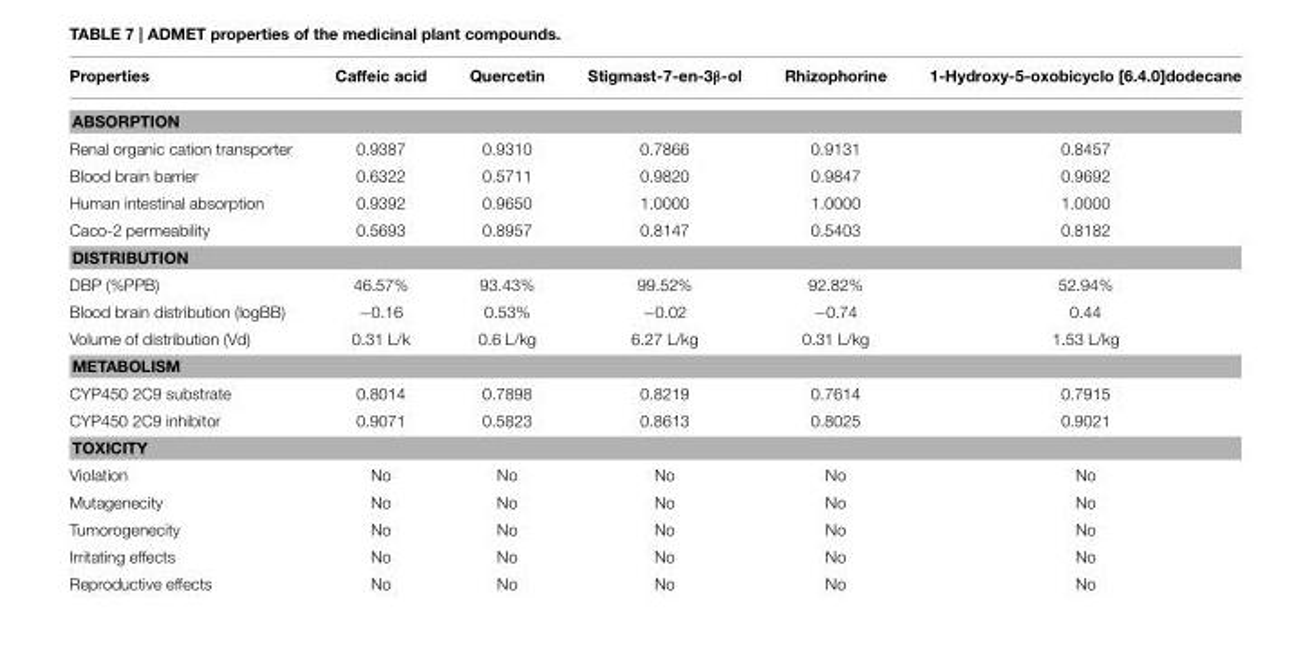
<table><thead><tr><td>Properties</td><td>Caffeic acid</td><td>Quercetin</td><td>Stigmast-7-en-3β-ol</td><td>Rhizophorine</td><td>1-Hydroxy-5-oxobicyclo [6.4.0]dodecane</td></tr></thead><tbody><tr><td colspan="6">ABSORPTION</td></tr><tr><td>Renal organic cation transporter</td><td>0.9387</td><td>0.9310</td><td>0.7866</td><td>0.9131</td><td>0.8457</td></tr><tr><td>Blood brain barrier</td><td>0.6322</td><td>0.5711</td><td>0.9820</td><td>0.9847</td><td>0.9692</td></tr><tr><td>Human intestinal absorption</td><td>0.9392</td><td>0.9650</td><td>1.0000</td><td>1.0000</td><td>1.0000</td></tr><tr><td>Caco-2 permeability</td><td>0.5693</td><td>0.8957</td><td>0.8147</td><td>0.5403</td><td>0.8182</td></tr><tr><td colspan="6">DISTRIBUTION</td></tr><tr><td>DBP (%PPB)</td><td>46.57%</td><td>93.43%</td><td>99.52%</td><td>92.82%</td><td>52.94%</td></tr><tr><td>Blood brain distribution (logBB)</td><td>−0.16</td><td>0.53%</td><td>−0.02</td><td>−0.74</td><td>0.44</td></tr><tr><td>Volume of distribution (Vd)</td><td>0.31 L/k</td><td>0.6 L/kg</td><td>6.27 L/kg</td><td>0.31 L/kg</td><td>1.53 L/kg</td></tr><tr><td colspan="6">METABOLISM</td></tr><tr><td>CYP450 2C9 substrate</td><td>0.8014</td><td>0.7898</td><td>0.8219</td><td>0.7614</td><td>0.7915</td></tr><tr><td>CYP450 2C9 inhibitor</td><td>0.9071</td><td>0.5823</td><td>0.8613</td><td>0.8025</td><td>0.9021</td></tr><tr><td colspan="6">TOXICITY</td></tr><tr><td>Violation</td><td>No</td><td>No</td><td>No</td><td>No</td><td>No</td></tr><tr><td>Mutagenecity</td><td>No</td><td>No</td><td>No</td><td>No</td><td>No</td></tr><tr><td>Tumorogenecity</td><td>No</td><td>No</td><td>No</td><td>No</td><td>No</td></tr><tr><td>Irritating effects</td><td>No</td><td>No</td><td>No</td><td>No</td><td>No</td></tr><tr><td>Reproductive effects</td><td>No</td><td>No</td><td>No</td><td>No</td><td>No</td></tr></tbody></table>